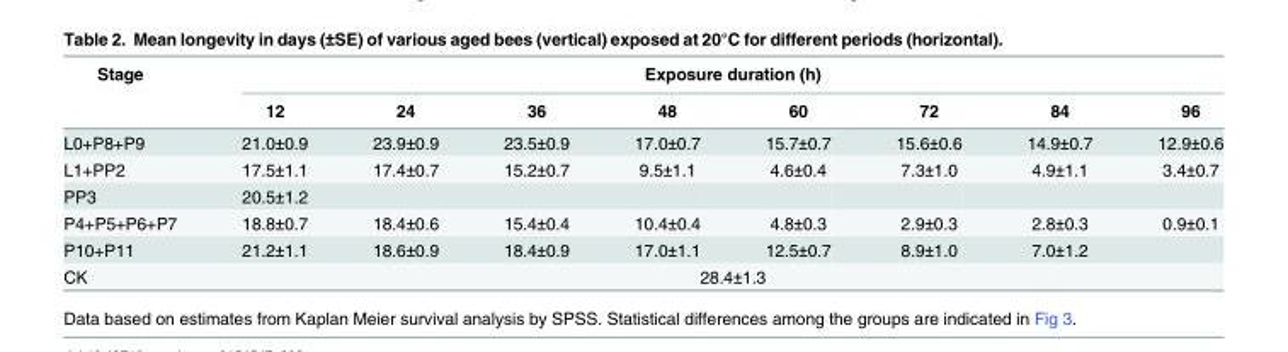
<table><thead><tr><td rowspan="2">Stage</td><td colspan="8">Exposure duration (h)</td></tr><tr><td>12</td><td>24</td><td>36</td><td>48</td><td>60</td><td>72</td><td>84</td><td>96</td></tr></thead><tbody><tr><td>L0+P8+P9</td><td>21.0±0.9</td><td>23.9±0.9</td><td>23.5±0.9</td><td>17.0±0.7</td><td>15.7±0.7</td><td>15.6±0.6</td><td>14.9±0.7</td><td>12.9±0.6</td></tr><tr><td>L1+PP2</td><td>17.5±1.1</td><td>17.4±0.7</td><td>15.2±0.7</td><td>9.5±1.1</td><td>4.6±0.4</td><td>7.3±1.0</td><td>4.9±1.1</td><td>3.4±0.7</td></tr><tr><td>PP3</td><td>20.5±1.2</td><td></td><td></td><td></td><td></td><td></td><td></td><td></td></tr><tr><td>P4+P5+P6+P7</td><td>18.8±0.7</td><td>18.4±0.6</td><td>15.4±0.4</td><td>10.4±0.4</td><td>4.8±0.3</td><td>2.9±0.3</td><td>2.8±0.3</td><td>0.9±0.1</td></tr><tr><td>P10+P11</td><td>21.2±1.1</td><td>18.6±0.9</td><td>18.4±0.9</td><td>17.0±1.1</td><td>12.5±0.7</td><td>8.9±1.0</td><td>7.0±1.2</td><td></td></tr><tr><td>CK</td><td colspan="8">28.4±1.3</td></tr></tbody></table>